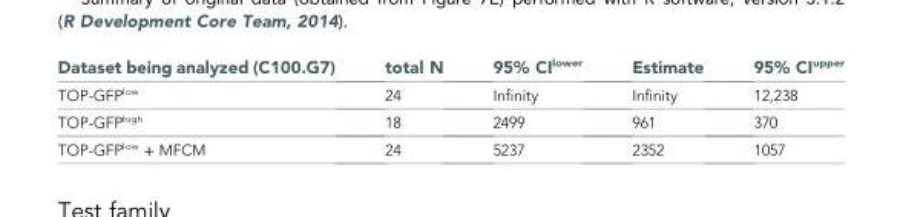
<table><thead><tr><td>Dataset being analyzed (C100.G7)</td><td>total N</td><td>95% CI<sup>lower</sup></td><td>Estimate</td><td>95% CI<sup>upper</sup></td></tr></thead><tbody><tr><td>TOP-GFP<sup>low</sup></td><td>24</td><td>Infinity</td><td>Infinity</td><td>12,238</td></tr><tr><td>TOP-GFP<sup>high</sup></td><td>18</td><td>2499</td><td>961</td><td>370</td></tr><tr><td>TOP-GFP<sup>low</sup> + MFCM</td><td>24</td><td>5237</td><td>2352</td><td>1057</td></tr></tbody></table>